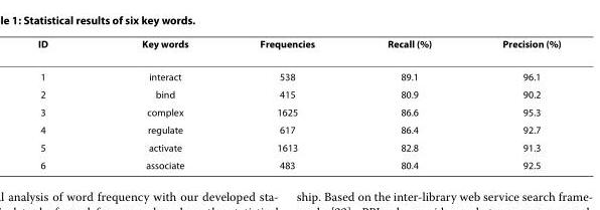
<table><thead><tr><td>ID</td><td>Key words</td><td>Frequencies</td><td>Recall (%)</td><td>Precision (%)</td></tr></thead><tbody><tr><td>1</td><td>interact</td><td>538</td><td>89.1</td><td>96.1</td></tr><tr><td>2</td><td>bind</td><td>415</td><td>80.9</td><td>90.2</td></tr><tr><td>3</td><td>complex</td><td>1625</td><td>86.6</td><td>95.3</td></tr><tr><td>4</td><td>regulate</td><td>617</td><td>86.4</td><td>92.7</td></tr><tr><td>5</td><td>activate</td><td>1613</td><td>82.8</td><td>91.3</td></tr><tr><td>6</td><td>associate</td><td>483</td><td>80.4</td><td>92.5</td></tr></tbody></table>